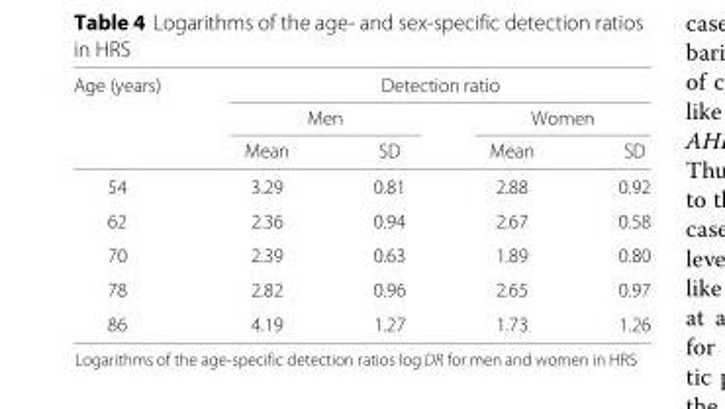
<table><thead><tr><td rowspan="3">Age (years)</td><td colspan="4">Detection ratio</td></tr><tr><td colspan="2">Men</td><td colspan="2">Women</td></tr><tr><td>Mean</td><td>SD</td><td>Mean</td><td>SD</td></tr></thead><tbody><tr><td>54</td><td>3.29</td><td>0.81</td><td>2.88</td><td>0.92</td></tr><tr><td>62</td><td>2.36</td><td>0.94</td><td>2.67</td><td>0.58</td></tr><tr><td>70</td><td>2.39</td><td>0.63</td><td>1.89</td><td>0.80</td></tr><tr><td>78</td><td>2.82</td><td>0.96</td><td>2.65</td><td>0.97</td></tr><tr><td>86</td><td>4.19</td><td>1.27</td><td>1.73</td><td>1.26</td></tr></tbody></table>